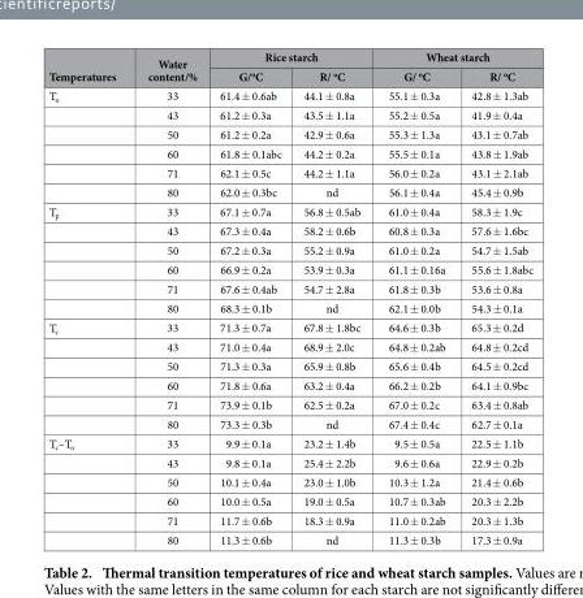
<table><thead><tr><td rowspan="2">Temperatures</td><td rowspan="2">Water content/%</td><td colspan="2">Rice starch</td><td colspan="2">Wheat starch</td></tr><tr><td>G/<sup>o</sup>C</td><td>R/ <sup>o</sup>C</td><td>G/ <sup>o</sup>C</td><td>R/ <sup>o</sup>C</td></tr></thead><tbody><tr><td rowspan="6">T<sub>o</sub></td><td>33</td><td>61.4 ± 0.6ab</td><td>44.1 ± 0.8a</td><td>55.1 ± 0.3a</td><td>42.8 ± 1.3ab</td></tr><tr><td>43</td><td>61.2 ± 0.3a</td><td>43.5 ± 1.1a</td><td>55.2 ± 0.5a</td><td>41.9 ± 0.4a</td></tr><tr><td>50</td><td>61.2 ± 0.2a</td><td>42.9 ± 0.6a</td><td>55.3 ± 1.3a</td><td>43.1 ± 0.7ab</td></tr><tr><td>60</td><td>61.8 ± 0.1abc</td><td>44.2 ± 0.2a</td><td>55.5 ± 0.1a</td><td>43.8 ± 1.9ab</td></tr><tr><td>71</td><td>62.1 ± 0.5c</td><td>44.2 ± 1.1a</td><td>56.0 ± 0.2a</td><td>43.1 ± 2.1ab</td></tr><tr><td>80</td><td>62.0 ± 0.3bc</td><td>nd</td><td>56.1 ± 0.4a</td><td>45.4 ± 0.9b</td></tr><tr><td rowspan="6">T<sub>p</sub></td><td>33</td><td>67.1 ± 0.7a</td><td>56.8 ± 0.5ab</td><td>61.0 ± 0.4a</td><td>58.3 ± 1.9c</td></tr><tr><td>43</td><td>67.3 ± 0.4a</td><td>58.2 ± 0.6b</td><td>60.8 ± 0.3a</td><td>57.6 ± 1.6bc</td></tr><tr><td>50</td><td>67.2 ± 0.3a</td><td>55.2 ± 0.9a</td><td>61.0 ± 0.2a</td><td>54.7 ± 1.5ab</td></tr><tr><td>60</td><td>66.9 ± 0.2a</td><td>53.9 ± 0.3a</td><td>61.1 ± 0.16a</td><td>55.6 ± 1.8abc</td></tr><tr><td>71</td><td>67.6 ± 0.4ab</td><td>54.7 ± 2.8a</td><td>61.8 ± 0.3b</td><td>53.6 ± 0.8a</td></tr><tr><td>80</td><td>68.3 ± 0.1b</td><td>nd</td><td>62.1 ± 0.0b</td><td>54.3 ± 0.1a</td></tr><tr><td rowspan="6">T<sub>c</sub></td><td>33</td><td>71.3 ± 0.7a</td><td>67.8 ± 1.8bc</td><td>64.6 ± 0.3b</td><td>65.3 ± 0.2d</td></tr><tr><td>43</td><td>71.0 ± 0.4a</td><td>68.9 ± 2.0c</td><td>64.8 ± 0.2ab</td><td>64.8 ± 0.2cd</td></tr><tr><td>50</td><td>71.3 ± 0.3a</td><td>65.9 ± 0.8b</td><td>65.6 ± 0.4b</td><td>64.5 ± 0.2cd</td></tr><tr><td>60</td><td>71.8 ± 0.6a</td><td>63.2 ± 0.4a</td><td>66.2 ± 0.2b</td><td>64.1 ± 0.9bc</td></tr><tr><td>71</td><td>73.9 ± 0.1b</td><td>62.5 ± 0.2a</td><td>67.0 ± 0.2c</td><td>63.4 ± 0.8ab</td></tr><tr><td>80</td><td>73.3 ± 0.3b</td><td>nd</td><td>67.4 ± 0.4c</td><td>62.7 ± 0.1a</td></tr><tr><td rowspan="6">T<sub>c</sub>–T<sub>o</sub></td><td>33</td><td>9.9 ± 0.1a</td><td>23.2 ± 1.4b</td><td>9.5 ± 0.5a</td><td>22.5 ± 1.1b</td></tr><tr><td>43</td><td>9.8 ± 0.1a</td><td>25.4 ± 2.2b</td><td>9.6 ± 0.6a</td><td>22.9 ± 0.2b</td></tr><tr><td>50</td><td>10.1 ± 0.4a</td><td>23.0 ± 1.0b</td><td>10.3 ± 1.2a</td><td>21.4 ± 0.6b</td></tr><tr><td>60</td><td>10.0 ± 0.5a</td><td>19.0 ± 0.5a</td><td>10.7 ± 0.3ab</td><td>20.3 ± 2.2b</td></tr><tr><td>71</td><td>11.7 ± 0.6b</td><td>18.3 ± 0.9a</td><td>11.0 ± 0.2ab</td><td>20.3 ± 1.3b</td></tr><tr><td>80</td><td>11.3 ± 0.6b</td><td>nd</td><td>11.3 ± 0.3b</td><td>17.3 ± 0.9a</td></tr></tbody></table>